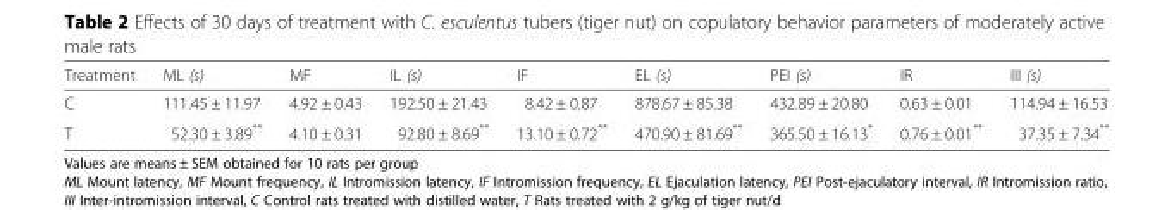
<table><thead><tr><td>Treatment</td><td>ML (s)</td><td>MF</td><td>IL (s)</td><td>IF</td><td>EL (s)</td><td>PEI (s)</td><td>IR</td><td>III (s)</td></tr></thead><tbody><tr><td>C</td><td>111.45 ± 11.97</td><td>4.92 ± 0.43</td><td>192.50 ± 21.43</td><td>8.42 ± 0.87</td><td>878.67 ± 85.38</td><td>432.89 ± 20.80</td><td>0.63 ± 0.01</td><td>114.94 ± 16.53</td></tr><tr><td>T</td><td>52.30 ± 3.89**</td><td>4.10 ± 0.31</td><td>92.80 ± 8.69**</td><td>13.10 ± 0.72**</td><td>470.90 ± 81.69**</td><td>365.50 ± 16.13*</td><td>0.76 ± 0.01**</td><td>37.35 ± 7.34**</td></tr></tbody></table>